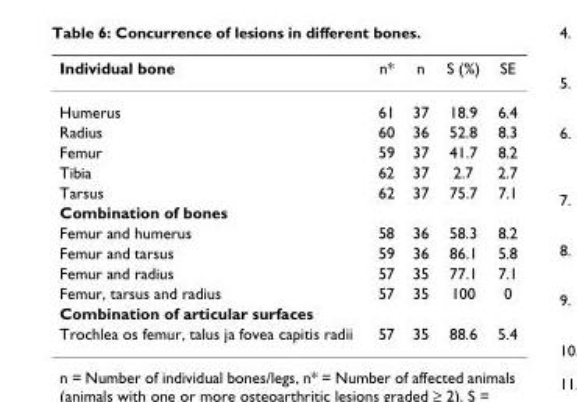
<table><thead><tr><td>Individual bone</td><td>n*</td><td>n</td><td>S (%)</td><td>SE</td></tr></thead><tbody><tr><td>Humerus</td><td>61</td><td>37</td><td>18.9</td><td>6.4</td></tr><tr><td>Radius</td><td>60</td><td>36</td><td>52.8</td><td>8.3</td></tr><tr><td>Femur</td><td>59</td><td>37</td><td>41.7</td><td>8.2</td></tr><tr><td>Tibia</td><td>62</td><td>37</td><td>2.7</td><td>2.7</td></tr><tr><td>Tarsus</td><td>62</td><td>37</td><td>75.7</td><td>7.1</td></tr><tr><td colspan="5">Combination of bones</td></tr><tr><td>Femur and humerus</td><td>58</td><td>36</td><td>58.3</td><td>8.2</td></tr><tr><td>Femur and tarsus</td><td>59</td><td>36</td><td>86.1</td><td>5.8</td></tr><tr><td>Femur and radius</td><td>57</td><td>35</td><td>77.1</td><td>7.1</td></tr><tr><td>Femur, tarsus and radius</td><td>57</td><td>35</td><td>100</td><td>0</td></tr><tr><td colspan="5">Combination of articular surfaces</td></tr><tr><td>Trochlea os femur, talus ja fovea capitis radii</td><td>57</td><td>35</td><td>88.6</td><td>5.4</td></tr></tbody></table>